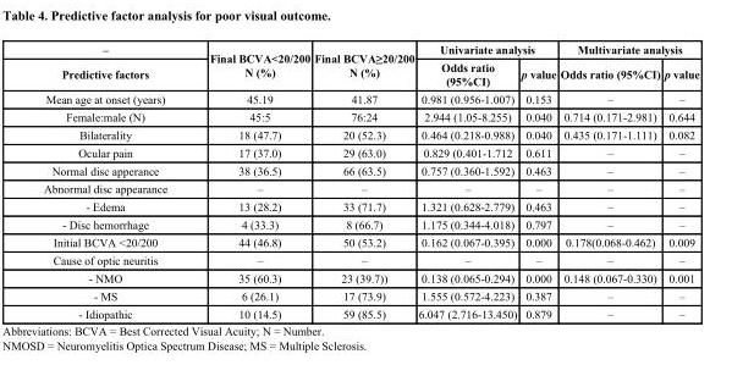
<table><thead><tr><td rowspan="2">– Predictive factors</td><td rowspan="2">Final BCVA&lt;20/200 N (%)</td><td rowspan="2">Final BCVA≥20/200 N (%)</td><td colspan="2">Univariate analysis</td><td colspan="2">Multivariate analysis</td></tr><tr><td>Odds ratio (95%CI)</td><td>p value</td><td>Odds ratio (95%CI)</td><td>p value</td></tr></thead><tbody><tr><td>Mean age at onset (years)</td><td>45.19</td><td>41.87</td><td>0.981 (0.956-1.007)</td><td>0.153</td><td>–</td><td>–</td></tr><tr><td>Female:male (N)</td><td>45:5</td><td>76:24</td><td>2.944 (1.05-8.255)</td><td>0.040</td><td>0.714 (0.171-2.981)</td><td>0.644</td></tr><tr><td>Bilaterality</td><td>18 (47.7)</td><td>20 (52.3)</td><td>0.464 (0.218-0.988)</td><td>0.040</td><td>0.435 (0.171-1.111)</td><td>0.082</td></tr><tr><td>Ocular pain</td><td>17 (37.0)</td><td>29 (63.0)</td><td>0.829 (0.401-1.712</td><td>0.611</td><td>–</td><td>–</td></tr><tr><td>Normal disc apperance</td><td>38 (36.5)</td><td>66 (63.5)</td><td>0.757 (0.360-1.592)</td><td>0.463</td><td>–</td><td>–</td></tr><tr><td>Abnormal disc appearance</td><td>–</td><td>–</td><td>–</td><td>–</td><td>–</td><td>–</td></tr><tr><td>- Edema</td><td>13 (28.2)</td><td>33 (71.7)</td><td>1.321 (0.628-2.779)</td><td>0.463</td><td>–</td><td>–</td></tr><tr><td>- Disc hemorrhage</td><td>4 (33.3)</td><td>8 (66.7)</td><td>1.175 (0.344-4.018)</td><td>0.797</td><td>–</td><td>–</td></tr><tr><td>Initial BCVA &lt;20/200</td><td>44 (46.8)</td><td>50 (53.2)</td><td>0.162 (0.067-0.395)</td><td>0.000</td><td>0.178(0.068-0.462)</td><td>0.009</td></tr><tr><td>Cause of optic neuritis</td><td>–</td><td>–</td><td>–</td><td>–</td><td>–</td><td>–</td></tr><tr><td>- NMO</td><td>35 (60.3)</td><td>23 (39.7))</td><td>0.138 (0.065-0.294)</td><td>0.000</td><td>0.148 (0.067-0.330)</td><td>0.001</td></tr><tr><td>- MS</td><td>6 (26.1)</td><td>17 (73.9)</td><td>1.555 (0.572-4.223)</td><td>0.387</td><td>–</td><td>–</td></tr><tr><td>- Idiopathic</td><td>10 (14.5)</td><td>59 (85.5)</td><td>6.047 (2.716-13.450)</td><td>0.879</td><td>–</td><td>–</td></tr></tbody></table>